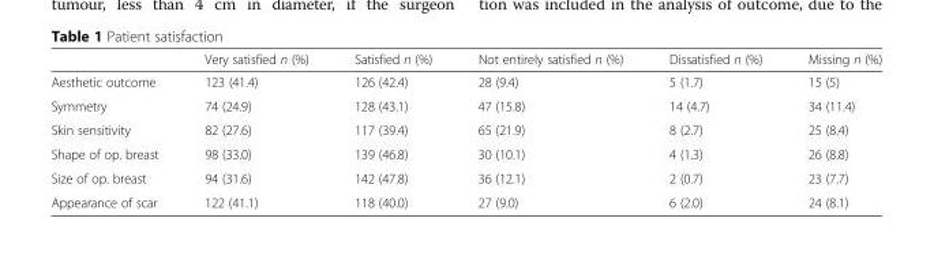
<table><thead><tr><td></td><td>Very satisfied n (%)</td><td>Satisfied n (%)</td><td>Not entirely satisfied n (%)</td><td>Dissatisfied n (%)</td><td>Missing n (%)</td></tr></thead><tbody><tr><td>Aesthetic outcome</td><td>123 (41.4)</td><td>126 (42.4)</td><td>28 (9.4)</td><td>5 (1.7)</td><td>15 (5)</td></tr><tr><td>Symmetry</td><td>74 (24.9)</td><td>128 (43.1)</td><td>47 (15.8)</td><td>14 (4.7)</td><td>34 (11.4)</td></tr><tr><td>Skin sensitivity</td><td>82 (27.6)</td><td>117 (39.4)</td><td>65 (21.9)</td><td>8 (2.7)</td><td>25 (8.4)</td></tr><tr><td>Shape of op. breast</td><td>98 (33.0)</td><td>139 (46.8)</td><td>30 (10.1)</td><td>4 (1.3)</td><td>26 (8.8)</td></tr><tr><td>Size of op. breast</td><td>94 (31.6)</td><td>142 (47.8)</td><td>36 (12.1)</td><td>2 (0.7)</td><td>23 (7.7)</td></tr><tr><td>Appearance of scar</td><td>122 (41.1)</td><td>118 (40.0)</td><td>27 (9.0)</td><td>6 (2.0)</td><td>24 (8.1)</td></tr></tbody></table>